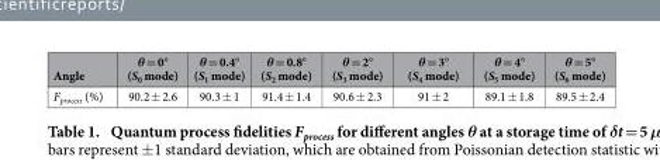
<table><thead><tr><td>Angle</td><td>θ = 0° (S<sub>0</sub> mode)</td><td>θ = 0.4° (S<sub>1</sub> mode)</td><td>θ = 0.8° (S<sub>2</sub> mode)</td><td>θ = 2° (S<sub>3</sub> mode)</td><td>θ = 3° (S<sub>4</sub> mode)</td><td>θ = 4° (S<sub>5</sub> mode)</td><td>θ = 5° (S<sub>6</sub> mode)</td></tr></thead><tbody><tr><td>F<sub>process</sub> (%)</td><td>90.2 ± 2.6</td><td>90.3 ± 1</td><td>91.4 ± 1.4</td><td>90.6 ± 2.3</td><td>91 ± 2</td><td>89.1 ± 1.8</td><td>89.5 ± 2.4</td></tr></tbody></table>